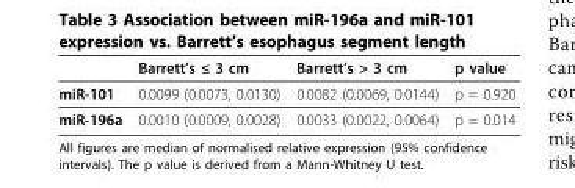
<table><thead><tr><td></td><td>Barrett’s ≤ 3 cm</td><td>Barrett’s &gt; 3 cm</td><td>p value</td></tr></thead><tbody><tr><td>miR-101</td><td>0.0099 (0.0073, 0.0130)</td><td>0.0082 (0.0069, 0.0144)</td><td>p = 0.920</td></tr><tr><td>miR-196a</td><td>0.0010 (0.0009, 0.0028)</td><td>0.0033 (0.0022, 0.0064)</td><td>p = 0.014</td></tr></tbody></table>